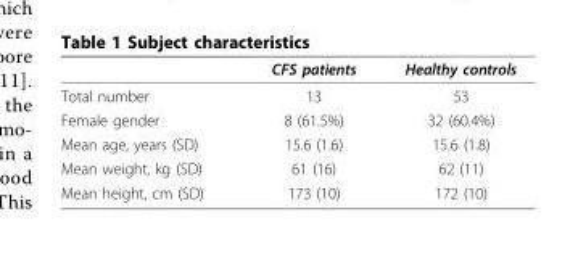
<table><thead><tr><td></td><td>CFS patients</td><td>Healthy controls</td></tr></thead><tbody><tr><td>Total number</td><td>13</td><td>53</td></tr><tr><td>Female gender</td><td>8 (61.5%)</td><td>32 (60.4%)</td></tr><tr><td>Mean age, years (SD)</td><td>15.6 (1.6)</td><td>15.6 (1.8)</td></tr><tr><td>Mean weight, kg (SD)</td><td>61 (16)</td><td>62 (11)</td></tr><tr><td>Mean height, cm (SD)</td><td>173 (10)</td><td>172 (10)</td></tr></tbody></table>